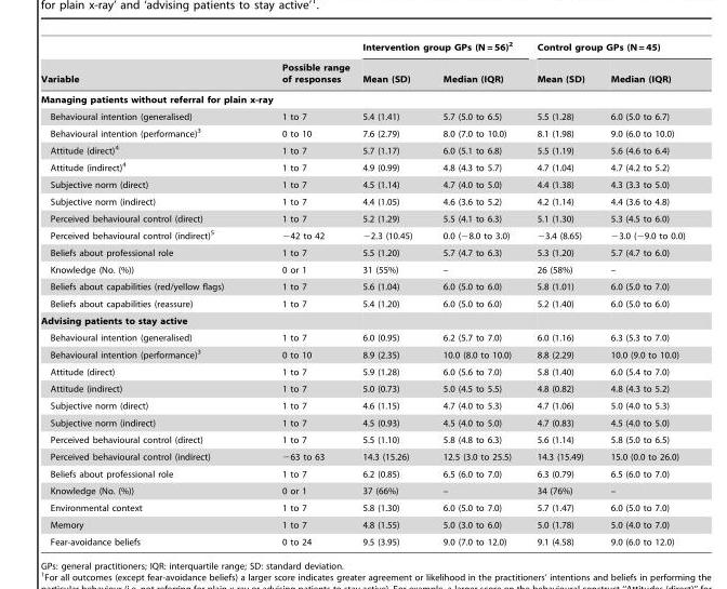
<table><thead><tr><td rowspan="2">Variable</td><td rowspan="2">Possible range of responses</td><td colspan="2">Intervention group GPs (N = 56)<sup>2</sup></td><td colspan="2">Control group GPs (N = 45)</td></tr><tr><td>Mean (SD)</td><td>Median (IQR)</td><td>Mean (SD)</td><td>Median (IQR)</td></tr></thead><tbody><tr><td colspan="6">Managing patients without referral for plain x-ray</td></tr><tr><td>Behavioural intention (generalised)</td><td>1 to 7</td><td>5.4 (1.41)</td><td>5.7 (5.0 to 6.5)</td><td>5.5 (1.28)</td><td>6.0 (5.0 to 6.7)</td></tr><tr><td>Behavioural intention (performance)<sup>3</sup></td><td>0 to 10</td><td>7.6 (2.79)</td><td>8.0 (7.0 to 10.0)</td><td>8.1 (1.98)</td><td>9.0 (6.0 to 10.0)</td></tr><tr><td>Attitude (direct)<sup>4</sup></td><td>1 to 7</td><td>5.7 (1.17)</td><td>6.0 (5.1 to 6.8)</td><td>5.5 (1.19)</td><td>5.6 (4.6 to 6.4)</td></tr><tr><td>Attitude (indirect)<sup>4</sup></td><td>1 to 7</td><td>4.9 (0.99)</td><td>4.8 (4.3 to 5.7)</td><td>4.7 (1.04)</td><td>4.7 (4.2 to 5.2)</td></tr><tr><td>Subjective norm (direct)</td><td>1 to 7</td><td>4.5 (1.14)</td><td>4.7 (4.0 to 5.0)</td><td>4.4 (1.38)</td><td>4.3 (3.3 to 5.0)</td></tr><tr><td>Subjective norm (indirect)</td><td>1 to 7</td><td>4.4 (1.05)</td><td>4.6 (3.6 to 5.2)</td><td>4.2 (1.14)</td><td>4.4 (3.6 to 4.8)</td></tr><tr><td>Perceived behavioural control (direct)</td><td>1 to 7</td><td>5.2 (1.29)</td><td>5.5 (4.1 to 6.3)</td><td>5.1 (1.30)</td><td>5.3 (4.5 to 6.0)</td></tr><tr><td>Perceived behavioural control (indirect)<sup>5</sup></td><td>−42 to 42</td><td>−2.3 (10.45)</td><td>0.0 (−8.0 to 3.0)</td><td>−3.4 (8.65)</td><td>−3.0 (−9.0 to 0.0)</td></tr><tr><td>Beliefs about professional role</td><td>1 to 7</td><td>5.5 (1.20)</td><td>5.7 (4.7 to 6.3)</td><td>5.3 (1.20)</td><td>5.7 (4.7 to 6.0)</td></tr><tr><td>Knowledge (No. (%))</td><td>0 or 1</td><td>31 (55%)</td><td>–</td><td>26 (58%)</td><td>–</td></tr><tr><td>Beliefs about capabilities (red/yellow flags)</td><td>1 to 7</td><td>5.6 (1.04)</td><td>6.0 (5.0 to 6.0)</td><td>5.8 (1.01)</td><td>6.0 (5.0 to 7.0)</td></tr><tr><td>Beliefs about capabilities (reassure)</td><td>1 to 7</td><td>5.4 (1.20)</td><td>6.0 (5.0 to 6.0)</td><td>5.2 (1.40)</td><td>6.0 (5.0 to 6.0)</td></tr><tr><td colspan="6">Advising patients to stay active</td></tr><tr><td>Behavioural intention (generalised)</td><td>1 to 7</td><td>6.0 (0.95)</td><td>6.2 (5.7 to 7.0)</td><td>6.0 (1.16)</td><td>6.3 (5.3 to 7.0)</td></tr><tr><td>Behavioural intention (performance)<sup>3</sup></td><td>0 to 10</td><td>8.9 (2.35)</td><td>10.0 (8.0 to 10.0)</td><td>8.8 (2.29)</td><td>10.0 (9.0 to 10.0)</td></tr><tr><td>Attitude (direct)</td><td>1 to 7</td><td>5.9 (1.28)</td><td>6.0 (5.6 to 7.0)</td><td>5.8 (1.40)</td><td>6.0 (5.4 to 7.0)</td></tr><tr><td>Attitude (indirect)</td><td>1 to 7</td><td>5.0 (0.73)</td><td>5.0 (4.5 to 5.5)</td><td>4.8 (0.82)</td><td>4.8 (4.3 to 5.2)</td></tr><tr><td>Subjective norm (direct)</td><td>1 to 7</td><td>4.6 (1.15)</td><td>4.7 (4.0 to 5.3)</td><td>4.7 (1.06)</td><td>5.0 (4.0 to 5.3)</td></tr><tr><td>Subjective norm (indirect)</td><td>1 to 7</td><td>4.5 (0.93)</td><td>4.5 (4.0 to 5.0)</td><td>4.7 (0.83)</td><td>4.5 (4.0 to 5.0)</td></tr><tr><td>Perceived behavioural control (direct)</td><td>1 to 7</td><td>5.5 (1.10)</td><td>5.8 (4.8 to 6.3)</td><td>5.6 (1.14)</td><td>5.8 (5.0 to 6.5)</td></tr><tr><td>Perceived behavioural control (indirect)</td><td>−63 to 63</td><td>14.3 (15.26)</td><td>12.5 (3.0 to 25.5)</td><td>14.3 (15.49)</td><td>15.0 (0.0 to 26.0)</td></tr><tr><td>Beliefs about professional role</td><td>1 to 7</td><td>6.2 (0.85)</td><td>6.5 (6.0 to 7.0)</td><td>6.3 (0.79)</td><td>6.5 (6.0 to 7.0)</td></tr><tr><td>Knowledge (No. (%))</td><td>0 or 1</td><td>37 (66%)</td><td>–</td><td>34 (76%)</td><td>–</td></tr><tr><td>Environmental context</td><td>1 to 7</td><td>5.8 (1.30)</td><td>6.0 (5.0 to 7.0)</td><td>5.7 (1.47)</td><td>6.0 (5.0 to 7.0)</td></tr><tr><td>Memory</td><td>1 to 7</td><td>4.8 (1.55)</td><td>5.0 (3.0 to 6.0)</td><td>5.0 (1.78)</td><td>5.0 (4.0 to 7.0)</td></tr><tr><td>Fear-avoidance beliefs</td><td>0 to 24</td><td>9.5 (3.95)</td><td>9.0 (7.0 to 12.0)</td><td>9.1 (4.58)</td><td>9.0 (6.0 to 12.0)</td></tr></tbody></table>